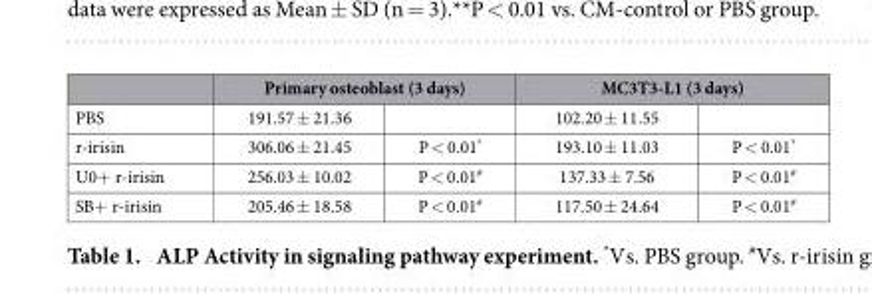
<table><thead><tr><td rowspan="2">PBS</td><td colspan="2">Primary osteoblast (3 days)</td><td colspan="2">MC3T3-L1 (3 days)</td></tr><tr><td>191.57 ± 21.36</td><td></td><td>102.20 ± 11.55</td><td></td></tr></thead><tbody><tr><td>r-irisin</td><td>306.06 ± 21.45</td><td>P &lt; 0.01*</td><td>193.10 ± 11.03</td><td>P &lt; 0.01*</td></tr><tr><td>U0+ r-irisin</td><td>256.03 ± 10.02</td><td>P &lt; 0.01#</td><td>137.33 ± 7.56</td><td>P &lt; 0.01#</td></tr><tr><td>SB+ r-irisin</td><td>205.46 ± 18.58</td><td>P &lt; 0.01#</td><td>117.50 ± 24.64</td><td>P &lt; 0.01#</td></tr></tbody></table>